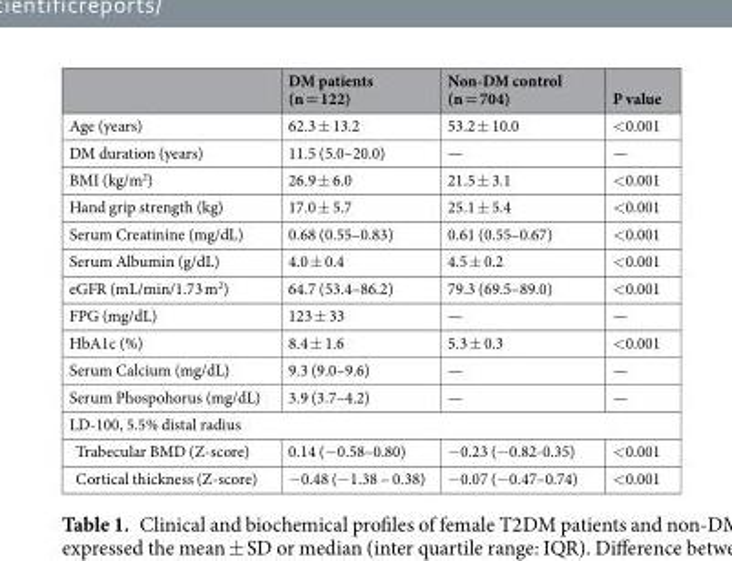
<table><thead><tr><td></td><td>DM patients (n = 122)</td><td>Non-DM control (n = 704)</td><td>P value</td></tr></thead><tbody><tr><td>Age (years)</td><td>62.3 ± 13.2</td><td>53.2 ± 10.0</td><td>&lt;0.001</td></tr><tr><td>DM duration (years)</td><td>11.5 (5.0–20.0)</td><td>—</td><td>—</td></tr><tr><td>BMI (kg/m<sup>2</sup>)</td><td>26.9 ± 6.0</td><td>21.5 ± 3.1</td><td>&lt;0.001</td></tr><tr><td>Hand grip strength (kg)</td><td>17.0 ± 5.7</td><td>25.1 ± 5.4</td><td>&lt;0.001</td></tr><tr><td>Serum Creatinine (mg/dL)</td><td>0.68 (0.55–0.83)</td><td>0.61 (0.55–0.67)</td><td>&lt;0.001</td></tr><tr><td>Serum Albumin (g/dL)</td><td>4.0 ± 0.4</td><td>4.5 ± 0.2</td><td>&lt;0.001</td></tr><tr><td>eGFR (mL/min/1.73 m<sup>2</sup>)</td><td>64.7 (53.4–86.2)</td><td>79.3 (69.5–89.0)</td><td>&lt;0.001</td></tr><tr><td>FPG (mg/dL)</td><td>123 ± 33</td><td>—</td><td>—</td></tr><tr><td>HbA1c (%)</td><td>8.4 ± 1.6</td><td>5.3 ± 0.3</td><td>&lt;0.001</td></tr><tr><td>Serum Calcium (mg/dL)</td><td>9.3 (9.0–9.6)</td><td>—</td><td>—</td></tr><tr><td>Serum Phospohorus (mg/dL)</td><td>3.9 (3.7–4.2)</td><td>—</td><td>—</td></tr><tr><td colspan="4">LD-100, 5.5% distal radius</td></tr><tr><td>Trabecular BMD (Z-score)</td><td>0.14 (−0.58–0.80)</td><td>−0.23 (−0.82-0.35)</td><td>&lt;0.001</td></tr><tr><td>Cortical thickness (Z-score)</td><td>−0.48 (−1.38 – 0.38)</td><td>−0.07 (−0.47–0.74)</td><td>&lt;0.001</td></tr></tbody></table>